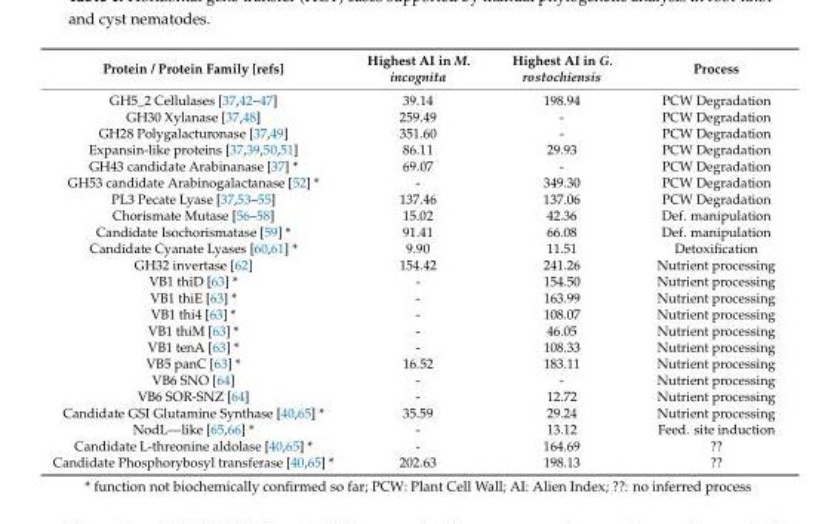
<table><thead><tr><td>Protein / Protein Family [refs]</td><td>Highest AI in M. incognita</td><td>Highest AI in G. rostochiensis</td><td>Process</td></tr></thead><tbody><tr><td>GH5_2 Cellulases [37,42–47]</td><td>39.14</td><td>198.94</td><td>PCW Degradation</td></tr><tr><td>GH30 Xylanase [37,48]</td><td>259.49</td><td>-</td><td>PCW Degradation</td></tr><tr><td>GH28 Polygalacturonase [37,49]</td><td>351.60</td><td>-</td><td>PCW Degradation</td></tr><tr><td>Expansin-like proteins [37,39,50,51]</td><td>86.11</td><td>29.93</td><td>PCW Degradation</td></tr><tr><td>GH43 candidate Arabinanase [37] *</td><td>69.07</td><td>-</td><td>PCW Degradation</td></tr><tr><td>GH53 candidate Arabinogalactanase [52] *</td><td>-</td><td>349.30</td><td>PCW Degradation</td></tr><tr><td>PL3 Pecate Lyase [37,53–55]</td><td>137.46</td><td>137.06</td><td>PCW Degradation</td></tr><tr><td>Chorismate Mutase [56–58]</td><td>15.02</td><td>42.36</td><td>Def. manipulation</td></tr><tr><td>Candidate Isochorismatase [59] *</td><td>91.41</td><td>66.08</td><td>Def. manipulation</td></tr><tr><td>Candidate Cyanate Lyases [60,61] *</td><td>9.90</td><td>11.51</td><td>Detoxification</td></tr><tr><td>GH32 invertase [62]</td><td>154.42</td><td>241.26</td><td>Nutrient processing</td></tr><tr><td>VB1 thiD [63] *</td><td>-</td><td>154.50</td><td>Nutrient processing</td></tr><tr><td>VB1 thiE [63] *</td><td>-</td><td>163.99</td><td>Nutrient processing</td></tr><tr><td>VB1 thi4 [63] *</td><td>-</td><td>108.07</td><td>Nutrient processing</td></tr><tr><td>VB1 thiM [63] *</td><td>-</td><td>46.05</td><td>Nutrient processing</td></tr><tr><td>VB1 tenA [63] *</td><td>-</td><td>108.33</td><td>Nutrient processing</td></tr><tr><td>VB5 panC [63] *</td><td>16.52</td><td>183.11</td><td>Nutrient processing</td></tr><tr><td>VB6 SNO [64]</td><td>-</td><td>-</td><td>Nutrient processing</td></tr><tr><td>VB6 SOR-SNZ [64]</td><td>-</td><td>12.72</td><td>Nutrient processing</td></tr><tr><td>Candidate GSI Glutamine Synthase [40,65] *</td><td>35.59</td><td>29.24</td><td>Nutrient processing</td></tr><tr><td>NodL—like [65,66] *</td><td>-</td><td>13.12</td><td>Feed. site induction</td></tr><tr><td>Candidate L-threonine aldolase [40,65] *</td><td>-</td><td>164.69</td><td>??</td></tr><tr><td>Candidate Phosphorybosyl transferase [40,65] *</td><td>202.63</td><td>198.13</td><td>??</td></tr></tbody></table>